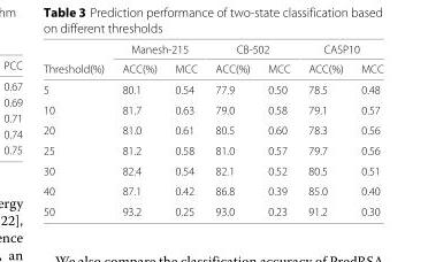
<table><thead><tr><td rowspan="2">Threshold(%)</td><td colspan="2">Manesh-215</td><td colspan="2">CB-502</td><td colspan="2">CASP10</td></tr><tr><td>ACC(%)</td><td>MCC</td><td>ACC(%)</td><td>MCC</td><td>ACC(%)</td><td>MCC</td></tr></thead><tbody><tr><td>5</td><td>80.1</td><td>0.54</td><td>77.9</td><td>0.50</td><td>78.5</td><td>0.48</td></tr><tr><td>10</td><td>81.7</td><td>0.63</td><td>79.0</td><td>0.58</td><td>79.1</td><td>0.57</td></tr><tr><td>20</td><td>81.0</td><td>0.61</td><td>80.5</td><td>0.60</td><td>78.3</td><td>0.56</td></tr><tr><td>25</td><td>81.2</td><td>0.58</td><td>81.0</td><td>0.57</td><td>79.7</td><td>0.56</td></tr><tr><td>30</td><td>82.4</td><td>0.54</td><td>82.1</td><td>0.52</td><td>80.5</td><td>0.51</td></tr><tr><td>40</td><td>87.1</td><td>0.42</td><td>86.8</td><td>0.39</td><td>85.0</td><td>0.40</td></tr><tr><td>50</td><td>93.2</td><td>0.25</td><td>93.0</td><td>0.23</td><td>91.2</td><td>0.30</td></tr></tbody></table>